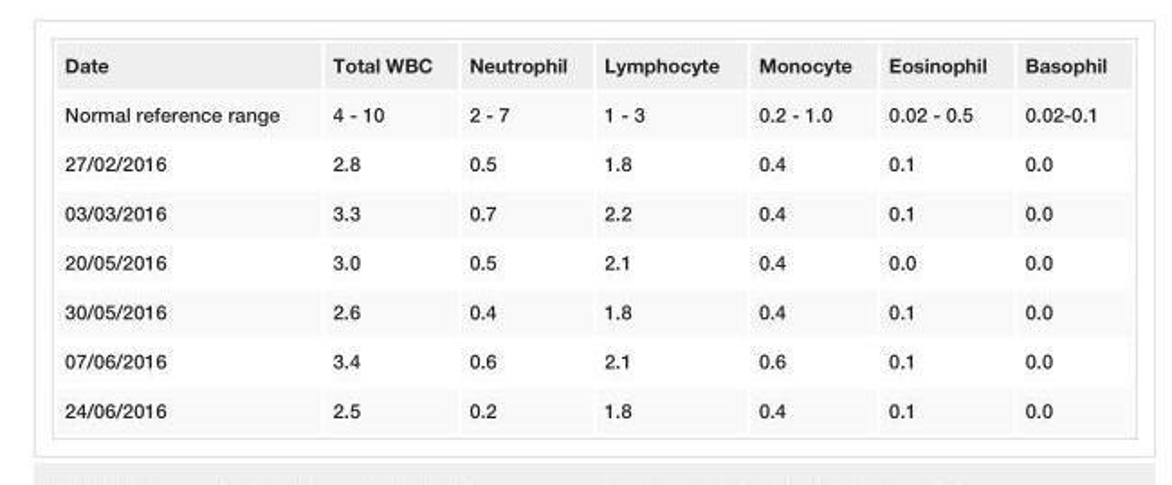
<table><tbody><tr><td>Date</td><td>Total WBC</td><td>Neutrophil</td><td>Lymphocyte</td><td>Monocyte</td><td>Eosinophil</td><td>Basophil</td></tr><tr><td>Normal reference range</td><td>4 - 10</td><td>2 - 7</td><td>1 - 3</td><td>0.2 - 1.0</td><td>0.02 - 0.5</td><td>0.02-0.1</td></tr><tr><td>27/02/2016</td><td>2.8</td><td>0.5</td><td>1.8</td><td>0.4</td><td>0.1</td><td>0.0</td></tr><tr><td>03/03/2016</td><td>3.3</td><td>0.7</td><td>2.2</td><td>0.4</td><td>0.1</td><td>0.0</td></tr><tr><td>20/05/2016</td><td>3.0</td><td>0.5</td><td>2.1</td><td>0.4</td><td>0.0</td><td>0.0</td></tr><tr><td>30/05/2016</td><td>2.6</td><td>0.4</td><td>1.8</td><td>0.4</td><td>0.1</td><td>0.0</td></tr><tr><td>07/06/2016</td><td>3.4</td><td>0.6</td><td>2.1</td><td>0.6</td><td>0.1</td><td>0.0</td></tr><tr><td>24/06/2016</td><td>2.5</td><td>0.2</td><td>1.8</td><td>0.4</td><td>0.1</td><td>0.0</td></tr></tbody></table>